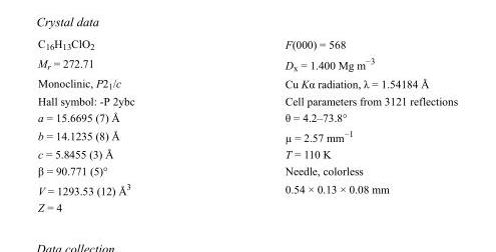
<table><tbody><tr><td>C<sub>16</sub>H<sub>13</sub>ClO<sub>2</sub></td><td>F(000) = 568</td></tr><tr><td>M<sub>r</sub> = 272.71</td><td>D<sub>x</sub> = 1.400 Mg m<sup>−3</sup></td></tr><tr><td>Monoclinic, P2<sub>1</sub>/c</td><td>Cu Kα radiation, λ = 1.54184 Å</td></tr><tr><td>Hall symbol: -P 2ybc</td><td>Cell parameters from 3121 reflections</td></tr><tr><td>a = 15.6695 (7) Å</td><td>θ = 4.2–73.8°</td></tr><tr><td>b = 14.1235 (8) Å</td><td>µ = 2.57 mm<sup>−1</sup></td></tr><tr><td>c = 5.8455 (3) Å</td><td>T = 110 K</td></tr><tr><td>β = 90.771 (5)°</td><td>Needle, colorless</td></tr><tr><td>V = 1293.53 (12) Å<sup>3</sup></td><td>0.54 × 0.13 × 0.08 mm</td></tr><tr><td>Z = 4</td><td></td></tr></tbody></table>